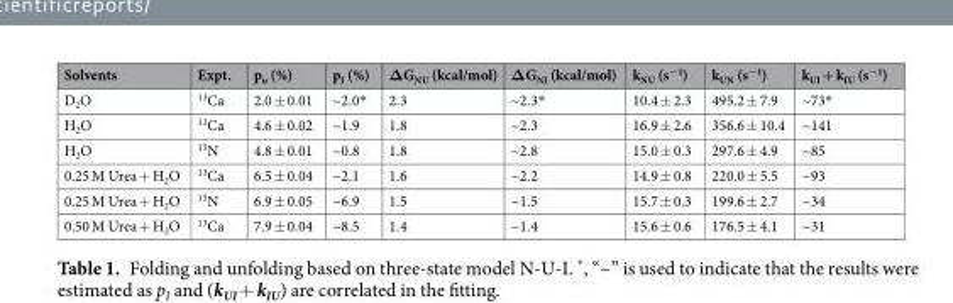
<table><thead><tr><td>Solvents</td><td>Expt.</td><td>p<sub>u</sub> (%)</td><td>p<sub>I</sub> (%)</td><td>ΔG<sub>NU</sub> (kcal/mol)</td><td>ΔG<sub>NI</sub> (kcal/mol)</td><td>k<sub>NU</sub> (s<sup>−1</sup>)</td><td>k<sub>UN</sub> (s<sup>−1</sup>)</td><td>k<sub>UI</sub> + k<sub>IU</sub> (s<sup>−1</sup>)</td></tr></thead><tbody><tr><td>D<sub>2</sub>O</td><td><sup>13</sup>Ca</td><td>2.0 ± 0.01</td><td>~2.0*</td><td>2.3</td><td>~2.3*</td><td>10.4 ± 2.3</td><td>495.2 ± 7.9</td><td>~73*</td></tr><tr><td>H<sub>2</sub>O</td><td><sup>13</sup>Ca</td><td>4.6 ± 0.02</td><td>~1.9</td><td>1.8</td><td>~2.3</td><td>16.9 ± 2.6</td><td>356.6 ± 10.4</td><td>~141</td></tr><tr><td>H<sub>2</sub>O</td><td><sup>15</sup>N</td><td>4.8 ± 0.01</td><td>~0.8</td><td>1.8</td><td>~2.8</td><td>15.0 ± 0.3</td><td>297.6 ± 4.9</td><td>~85</td></tr><tr><td>0.25 M Urea + H<sub>2</sub>O</td><td><sup>13</sup>Ca</td><td>6.5 ± 0.04</td><td>~2.1</td><td>1.6</td><td>~2.2</td><td>14.9 ± 0.8</td><td>220.0 ± 5.5</td><td>~93</td></tr><tr><td>0.25 M Urea + H<sub>2</sub>O</td><td><sup>15</sup>N</td><td>6.9 ± 0.05</td><td>~6.9</td><td>1.5</td><td>~1.5</td><td>15.7 ± 0.3</td><td>199.6 ± 2.7</td><td>~34</td></tr><tr><td>0.50 M Urea + H<sub>2</sub>O</td><td><sup>13</sup>Ca</td><td>7.9 ± 0.04</td><td>~8.5</td><td>1.4</td><td>~1.4</td><td>15.6 ± 0.6</td><td>176.5 ± 4.1</td><td>~31</td></tr></tbody></table>